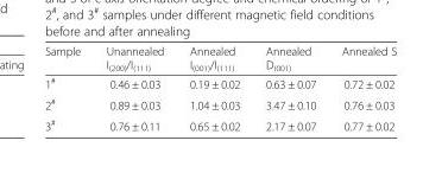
<table><thead><tr><td>Sample</td><td>Unannealed I<sub>(200)</sub>/I<sub>(111)</sub></td><td>Annealed I<sub>(001)</sub>/I<sub>(111)</sub></td><td>Annealed D<sub>(001)</sub></td><td>Annealed S</td></tr></thead><tbody><tr><td>1<sup>#</sup></td><td>0.46 ± 0.03</td><td>0.19 ± 0.02</td><td>0.63 ± 0.07</td><td>0.72 ± 0.02</td></tr><tr><td>2<sup>#</sup></td><td>0.89 ± 0.03</td><td>1.04 ± 0.03</td><td>3.47 ± 0.10</td><td>0.76 ± 0.03</td></tr><tr><td>3<sup>#</sup></td><td>0.76 ± 0.11</td><td>0.65 ± 0.02</td><td>2.17 ± 0.07</td><td>0.77 ± 0.02</td></tr></tbody></table>